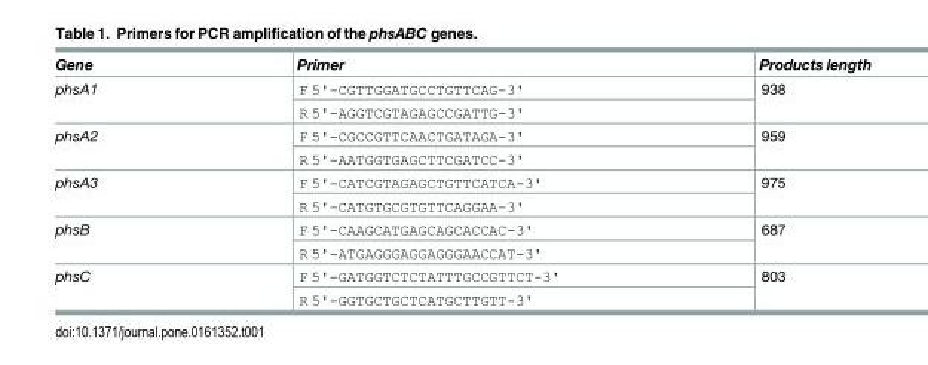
<table><thead><tr><td>Gene</td><td>Primer</td><td>Products length</td></tr></thead><tbody><tr><td rowspan="2">phsA1</td><td>F 5&#x27;-CGTTGGATGCCTGTTCAG-3&#x27;</td><td rowspan="2">938</td></tr><tr><td>R 5&#x27;-AGGTCGTAGAGCCGATTG-3&#x27;</td></tr><tr><td rowspan="2">phsA2</td><td>F 5&#x27;-CGCCGTTCAACTGATAGA-3&#x27;</td><td rowspan="2">959</td></tr><tr><td>R 5&#x27;-AATGGTGAGCTTCGATCC-3&#x27;</td></tr><tr><td rowspan="2">phsA3</td><td>F 5&#x27;-CATCGTAGAGCTGTTCATCA-3&#x27;</td><td rowspan="2">975</td></tr><tr><td>R 5&#x27;-CATGTGCGTGTTCAGGAA-3&#x27;</td></tr><tr><td rowspan="2">phsB</td><td>F 5&#x27;-CAAGCATGAGCAGCACCAC-3&#x27;</td><td rowspan="2">687</td></tr><tr><td>R 5&#x27;-ATGAGGGAGGAGGGAACCAT-3&#x27;</td></tr><tr><td rowspan="2">phsC</td><td>F 5&#x27;-GATGGTCTCTATTTGCCGTTCT-3&#x27;</td><td rowspan="2">803</td></tr><tr><td>R 5&#x27;-GGTGCTGCTCATGCTTGTT-3&#x27;</td></tr></tbody></table>